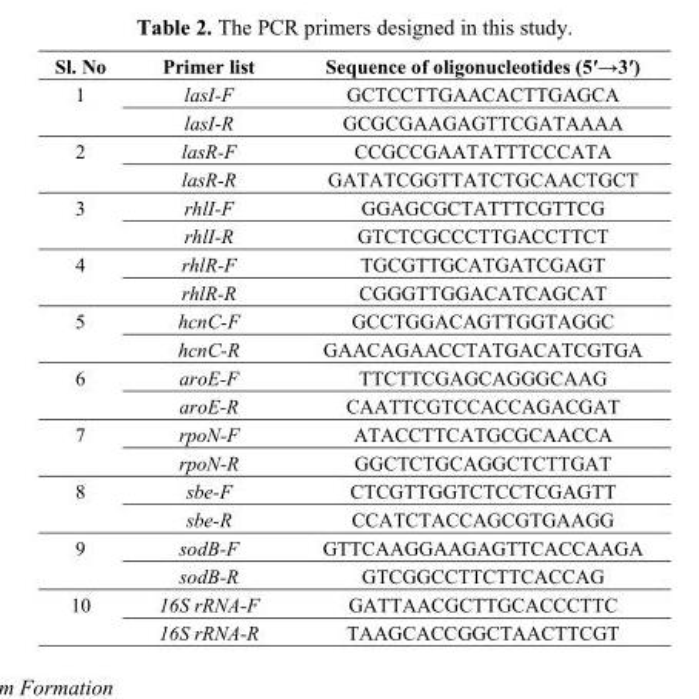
<table><thead><tr><td>Sl. No</td><td>Primer list</td><td>Sequence of oligonucleotides (5′→3′)</td></tr></thead><tbody><tr><td rowspan="2">1</td><td>lasI-F</td><td>GCTCCTTGAACACTTGAGCA</td></tr><tr><td>lasI-R</td><td>GCGCGAAGAGTTCGATAAAA</td></tr><tr><td rowspan="2">2</td><td>lasR-F</td><td>CCGCCGAATATTTCCCATA</td></tr><tr><td>lasR-R</td><td>GATATCGGTTATCTGCAACTGCT</td></tr><tr><td rowspan="2">3</td><td>rhlI-F</td><td>GGAGCGCTATTTCGTTCG</td></tr><tr><td>rhlI-R</td><td>GTCTCGCCCTTGACCTTCT</td></tr><tr><td rowspan="2">4</td><td>rhlR-F</td><td>TGCGTTGCATGATCGAGT</td></tr><tr><td>rhlR-R</td><td>CGGGTTGGACATCAGCAT</td></tr><tr><td rowspan="2">5</td><td>hcnC-F</td><td>GCCTGGACAGTTGGTAGGC</td></tr><tr><td>hcnC-R</td><td>GAACAGAACCTATGACATCGTGA</td></tr><tr><td rowspan="2">6</td><td>aroE-F</td><td>TTCTTCGAGCAGGGCAAG</td></tr><tr><td>aroE-R</td><td>CAATTCGTCCACCAGACGAT</td></tr><tr><td rowspan="2">7</td><td>rpoN-F</td><td>ATACCTTCATGCGCAACCA</td></tr><tr><td>rpoN-R</td><td>GGCTCTGCAGGCTCTTGAT</td></tr><tr><td rowspan="2">8</td><td>sbe-F</td><td>CTCGTTGGTCTCCTCGAGTT</td></tr><tr><td>sbe-R</td><td>CCATCTACCAGCGTGAAGG</td></tr><tr><td rowspan="2">9</td><td>sodB-F</td><td>GTTCAAGGAAGAGTTCACCAAGA</td></tr><tr><td>sodB-R</td><td>GTCGGCCTTCTTCACCAG</td></tr><tr><td rowspan="2">10</td><td>16S rRNA-F</td><td>GATTAACGCTTGCACCCTTC</td></tr><tr><td>16S rRNA-R</td><td>TAAGCACCGGCTAACTTCGT</td></tr></tbody></table>